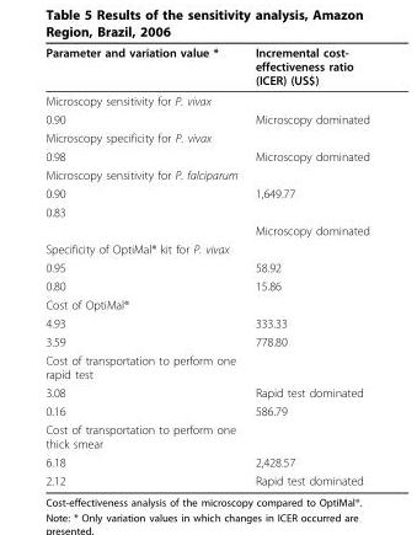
<table><thead><tr><td>Parameter and variation value *</td><td>Incremental cost- effectiveness ratio (ICER) (US$)</td></tr></thead><tbody><tr><td colspan="2">Microscopy sensitivity for P. vivax</td></tr><tr><td>0.90</td><td>Microscopy dominated</td></tr><tr><td colspan="2">Microscopy specificity for P. vivax</td></tr><tr><td>0.98</td><td>Microscopy dominated</td></tr><tr><td colspan="2">Microscopy sensitivity for P. falciparum</td></tr><tr><td>0.90</td><td>1,649.77</td></tr><tr><td colspan="2">0.83</td></tr><tr><td></td><td>Microscopy dominated</td></tr><tr><td colspan="2">Specificity of OptiMal<sup>®</sup> kit for P. vivax</td></tr><tr><td>0.95</td><td>58.92</td></tr><tr><td>0.80</td><td>15.86</td></tr><tr><td colspan="2">Cost of OptiMal<sup>®</sup></td></tr><tr><td>4.93</td><td>333.33</td></tr><tr><td>3.59</td><td>778.80</td></tr><tr><td colspan="2">Cost of transportation to perform one rapid test</td></tr><tr><td>3.08</td><td>Rapid test dominated</td></tr><tr><td>0.16</td><td>586.79</td></tr><tr><td colspan="2">Cost of transportation to perform one thick smear</td></tr><tr><td>6.18</td><td>2,428.57</td></tr><tr><td>2.12</td><td>Rapid test dominated</td></tr></tbody></table>